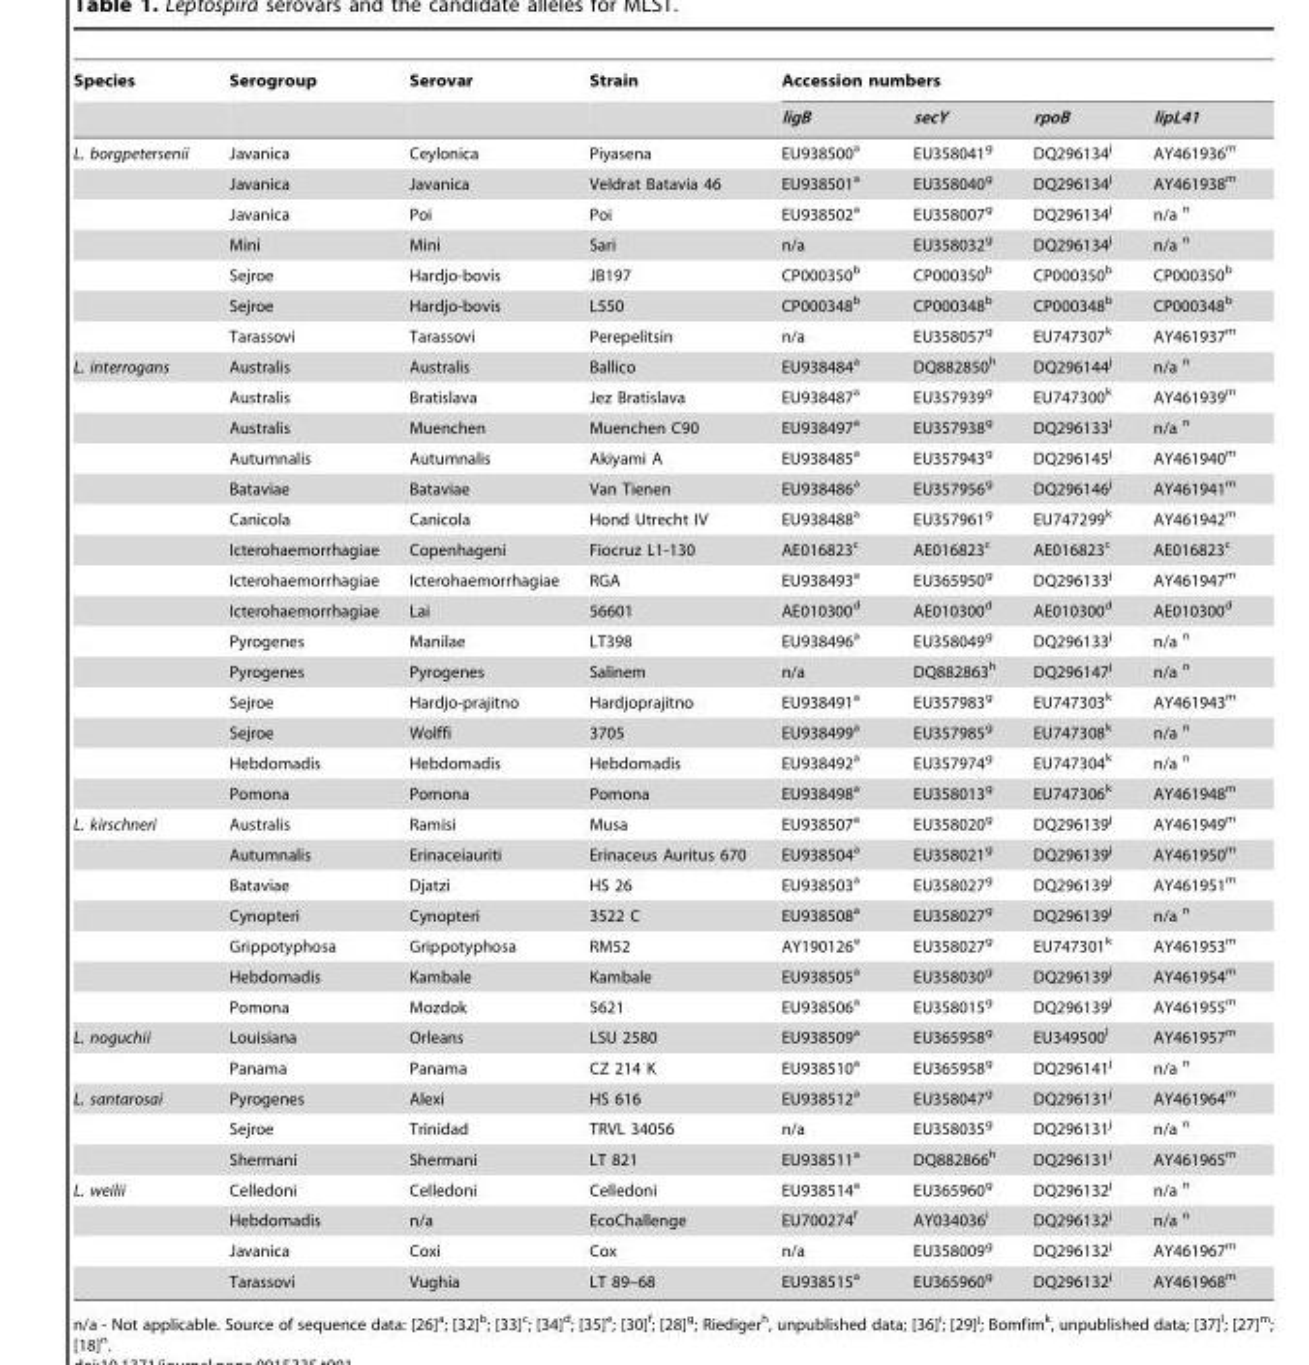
<table><thead><tr><td rowspan="2">Species</td><td rowspan="2">Serogroup</td><td rowspan="2">Serovar</td><td rowspan="2">Strain</td><td colspan="4">Accession numbers</td></tr><tr><td>ligB</td><td>secY</td><td>rpoB</td><td>lipL41</td></tr></thead><tbody><tr><td rowspan="7">L. borgpetersenii</td><td>Javanica</td><td>Ceylonica</td><td>Piyasena</td><td>EU938500<sup>a</sup></td><td>EU358041<sup>g</sup></td><td>DQ296134<sup>j</sup></td><td>AY461936<sup>m</sup></td></tr><tr><td>Javanica</td><td>Javanica</td><td>Veldrat Batavia 46</td><td>EU938501<sup>a</sup></td><td>EU358040<sup>g</sup></td><td>DQ296134<sup>j</sup></td><td>AY461938<sup>m</sup></td></tr><tr><td>Javanica</td><td>Poi</td><td>Poi</td><td>EU938502<sup>a</sup></td><td>EU358007<sup>g</sup></td><td>DQ296134<sup>j</sup></td><td>n/a <sup>n</sup></td></tr><tr><td>Mini</td><td>Mini</td><td>Sari</td><td>n/a</td><td>EU358032<sup>g</sup></td><td>DQ296134<sup>j</sup></td><td>n/a <sup>n</sup></td></tr><tr><td>Sejroe</td><td>Hardjo-bovis</td><td>JB197</td><td>CP000350<sup>b</sup></td><td>CP000350<sup>b</sup></td><td>CP000350<sup>b</sup></td><td>CP000350<sup>b</sup></td></tr><tr><td>Sejroe</td><td>Hardjo-bovis</td><td>L550</td><td>CP000348<sup>b</sup></td><td>CP000348<sup>b</sup></td><td>CP000348<sup>b</sup></td><td>CP000348<sup>b</sup></td></tr><tr><td>Tarassovi</td><td>Tarassovi</td><td>Perepelitsin</td><td>n/a</td><td>EU358057<sup>g</sup></td><td>EU747307<sup>k</sup></td><td>AY461937<sup>m</sup></td></tr><tr><td rowspan="15">L. interrogans</td><td>Australis</td><td>Australis</td><td>Ballico</td><td>EU938484<sup>a</sup></td><td>DQ882850<sup>h</sup></td><td>DQ296144<sup>j</sup></td><td>n/a <sup>n</sup></td></tr><tr><td>Australis</td><td>Bratislava</td><td>Jez Bratislava</td><td>EU938487<sup>a</sup></td><td>EU357939<sup>g</sup></td><td>EU747300<sup>k</sup></td><td>AY461939<sup>m</sup></td></tr><tr><td>Australis</td><td>Muenchen</td><td>Muenchen C90</td><td>EU938497<sup>a</sup></td><td>EU357938<sup>g</sup></td><td>DQ296133<sup>j</sup></td><td>n/a <sup>n</sup></td></tr><tr><td>Autumnalis</td><td>Autumnalis</td><td>Akiyami A</td><td>EU938485<sup>a</sup></td><td>EU357943<sup>g</sup></td><td>DQ296145<sup>j</sup></td><td>AY461940<sup>m</sup></td></tr><tr><td>Bataviae</td><td>Bataviae</td><td>Van Tienen</td><td>EU938486<sup>a</sup></td><td>EU357956<sup>g</sup></td><td>DQ296146<sup>j</sup></td><td>AY461941<sup>m</sup></td></tr><tr><td>Canicola</td><td>Canicola</td><td>Hond Utrecht IV</td><td>EU938488<sup>a</sup></td><td>EU357961<sup>g</sup></td><td>EU747299<sup>k</sup></td><td>AY461942<sup>m</sup></td></tr><tr><td>Icterohaemorrhagiae</td><td>Copenhageni</td><td>Fiocruz L1-130</td><td>AE016823<sup>c</sup></td><td>AE016823<sup>c</sup></td><td>AE016823<sup>c</sup></td><td>AE016823<sup>c</sup></td></tr><tr><td>Icterohaemorrhagiae</td><td>Icterohaemorrhagiae</td><td>RGA</td><td>EU938493<sup>a</sup></td><td>EU365950<sup>g</sup></td><td>DQ296133<sup>j</sup></td><td>AY461947<sup>m</sup></td></tr><tr><td>Icterohaemorrhagiae</td><td>Lai</td><td>56601</td><td>AE010300<sup>d</sup></td><td>AE010300<sup>d</sup></td><td>AE010300<sup>d</sup></td><td>AE010300<sup>d</sup></td></tr><tr><td>Pyrogenes</td><td>Manilae</td><td>LT398</td><td>EU938496<sup>a</sup></td><td>EU358049<sup>g</sup></td><td>DQ296133<sup>j</sup></td><td>n/a <sup>n</sup></td></tr><tr><td>Pyrogenes</td><td>Pyrogenes</td><td>Salinem</td><td>n/a</td><td>DQ882863<sup>h</sup></td><td>DQ296147<sup>j</sup></td><td>n/a <sup>n</sup></td></tr><tr><td>Sejroe</td><td>Hardjo-prajitno</td><td>Hardjoprajitno</td><td>EU938491<sup>a</sup></td><td>EU357983<sup>g</sup></td><td>EU747303<sup>k</sup></td><td>AY461943<sup>m</sup></td></tr><tr><td>Sejroe</td><td>Wolffi</td><td>3705</td><td>EU938499<sup>a</sup></td><td>EU357985<sup>g</sup></td><td>EU747308<sup>k</sup></td><td>n/a <sup>n</sup></td></tr><tr><td>Hebdomadis</td><td>Hebdomadis</td><td>Hebdomadis</td><td>EU938492<sup>a</sup></td><td>EU357974<sup>g</sup></td><td>EU747304<sup>k</sup></td><td>n/a <sup>n</sup></td></tr><tr><td>Pomona</td><td>Pomona</td><td>Pomona</td><td>EU938498<sup>a</sup></td><td>EU358013<sup>g</sup></td><td>EU747306<sup>k</sup></td><td>AY461948<sup>m</sup></td></tr><tr><td rowspan="7">L. kirschneri</td><td>Australis</td><td>Ramisi</td><td>Musa</td><td>EU938507<sup>a</sup></td><td>EU358020<sup>g</sup></td><td>DQ296139<sup>j</sup></td><td>AY461949<sup>m</sup></td></tr><tr><td>Autumnalis</td><td>Erinaceiauriti</td><td>Erinaceus Auritus 670</td><td>EU938504<sup>a</sup></td><td>EU358021<sup>g</sup></td><td>DQ296139<sup>j</sup></td><td>AY461950<sup>m</sup></td></tr><tr><td>Bataviae</td><td>Djatzi</td><td>HS 26</td><td>EU938503<sup>a</sup></td><td>EU358027<sup>g</sup></td><td>DQ296139<sup>j</sup></td><td>AY461951<sup>m</sup></td></tr><tr><td>Cynopteri</td><td>Cynopteri</td><td>3522 C</td><td>EU938508<sup>a</sup></td><td>EU358027<sup>g</sup></td><td>DQ296139<sup>j</sup></td><td>n/a <sup>n</sup></td></tr><tr><td>Grippotyphosa</td><td>Grippotyphosa</td><td>RM52</td><td>AY190126<sup>e</sup></td><td>EU358027<sup>g</sup></td><td>EU747301<sup>k</sup></td><td>AY461953<sup>m</sup></td></tr><tr><td>Hebdomadis</td><td>Kambale</td><td>Kambale</td><td>EU938505<sup>a</sup></td><td>EU358030<sup>g</sup></td><td>DQ296139<sup>j</sup></td><td>AY461954<sup>m</sup></td></tr><tr><td>Pomona</td><td>Mozdok</td><td>5621</td><td>EU938506<sup>a</sup></td><td>EU358015<sup>g</sup></td><td>DQ296139<sup>j</sup></td><td>AY461955<sup>m</sup></td></tr><tr><td rowspan="2">L. noguchii</td><td>Louisiana</td><td>Orleans</td><td>LSU 2580</td><td>EU938509<sup>a</sup></td><td>EU365958<sup>g</sup></td><td>EU349500<sup>l</sup></td><td>AY461957<sup>m</sup></td></tr><tr><td>Panama</td><td>Panama</td><td>CZ 214 K</td><td>EU938510<sup>a</sup></td><td>EU365958<sup>g</sup></td><td>DQ296141<sup>j</sup></td><td>n/a <sup>n</sup></td></tr><tr><td rowspan="3">L. santarosai</td><td>Pyrogenes</td><td>Alexi</td><td>HS 616</td><td>EU938512<sup>a</sup></td><td>EU358047<sup>g</sup></td><td>DQ296131<sup>j</sup></td><td>AY461964<sup>m</sup></td></tr><tr><td>Sejroe</td><td>Trinidad</td><td>TRVL 34056</td><td>n/a</td><td>EU358035<sup>g</sup></td><td>DQ296131<sup>j</sup></td><td>n/a <sup>n</sup></td></tr><tr><td>Shermani</td><td>Shermani</td><td>LT 821</td><td>EU938511<sup>a</sup></td><td>DQ882866<sup>h</sup></td><td>DQ296131<sup>j</sup></td><td>AY461965<sup>m</sup></td></tr><tr><td rowspan="4">L. weilii</td><td>Celledoni</td><td>Celledoni</td><td>Celledoni</td><td>EU938514<sup>a</sup></td><td>EU365960<sup>g</sup></td><td>DQ296132<sup>j</sup></td><td>n/a <sup>n</sup></td></tr><tr><td>Hebdomadis</td><td>n/a</td><td>EcoChallenge</td><td>EU700274<sup>f</sup></td><td>AY034036<sup>i</sup></td><td>DQ296132<sup>j</sup></td><td>n/a <sup>n</sup></td></tr><tr><td>Javanica</td><td>Coxi</td><td>Cox</td><td>n/a</td><td>EU358009<sup>g</sup></td><td>DQ296132<sup>j</sup></td><td>AY461967<sup>m</sup></td></tr><tr><td>Tarassovi</td><td>Vughia</td><td>LT 89–68</td><td>EU938515<sup>a</sup></td><td>EU365960<sup>g</sup></td><td>DQ296132<sup>j</sup></td><td>AY461968<sup>m</sup></td></tr></tbody></table>